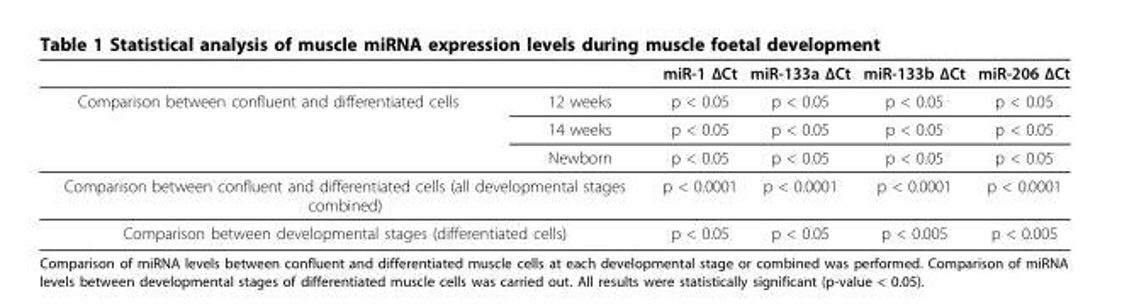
<table><thead><tr><td></td><td></td><td>miR-1 ΔCt</td><td>miR-133a ΔCt</td><td>miR-133b ΔCt</td><td>miR-206 ΔCt</td></tr></thead><tbody><tr><td rowspan="3">Comparison between confluent and differentiated cells</td><td>12 weeks</td><td>p &lt; 0.05</td><td>p &lt; 0.05</td><td>p &lt; 0.05</td><td>p &lt; 0.05</td></tr><tr><td>14 weeks</td><td>p &lt; 0.05</td><td>p &lt; 0.05</td><td>p &lt; 0.05</td><td>p &lt; 0.05</td></tr><tr><td>Newborn</td><td>p &lt; 0.05</td><td>p &lt; 0.05</td><td>p &lt; 0.05</td><td>p &lt; 0.05</td></tr><tr><td colspan="2">Comparison between confluent and differentiated cells (all developmental stages combined)</td><td>p &lt; 0.0001</td><td>p &lt; 0.0001</td><td>p &lt; 0.0001</td><td>p &lt; 0.0001</td></tr><tr><td colspan="2">Comparison between developmental stages (differentiated cells)</td><td>p &lt; 0.05</td><td>p &lt; 0.05</td><td>p &lt; 0.005</td><td>p &lt; 0.005</td></tr></tbody></table>